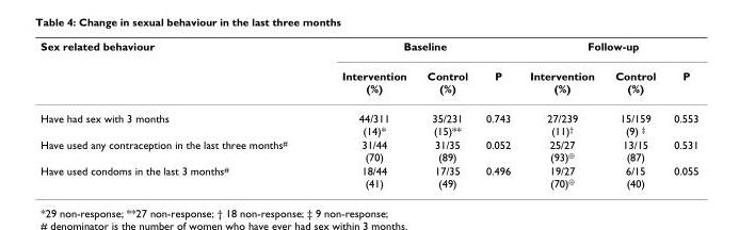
<table><thead><tr><td rowspan="2">Sex related behaviour</td><td colspan="3">Baseline</td><td colspan="3">Follow-up</td></tr><tr><td>Intervention (%)</td><td>Control (%)</td><td>P</td><td>Intervention (%)</td><td>Control (%)</td><td>P</td></tr></thead><tbody><tr><td>Have had sex with 3 months</td><td>44/311 (14)*</td><td>35/231 (15)**</td><td>0.743</td><td>27/239 (11)<sup>†</sup></td><td>15/159 (9) <sup>‡</sup></td><td>0.553</td></tr><tr><td>Have used any contraception in the last three months<sup>#</sup></td><td>31/44 (70)</td><td>31/35 (89)</td><td>0.052</td><td>25/27 (93)<sup>⊕</sup></td><td>13/15 (87)</td><td>0.531</td></tr><tr><td>Have used condoms in the last 3 months<sup>#</sup></td><td>18/44 (41)</td><td>17/35 (49)</td><td>0.496</td><td>19/27 (70)<sup>⊕</sup></td><td>6/15 (40)</td><td>0.055</td></tr></tbody></table>